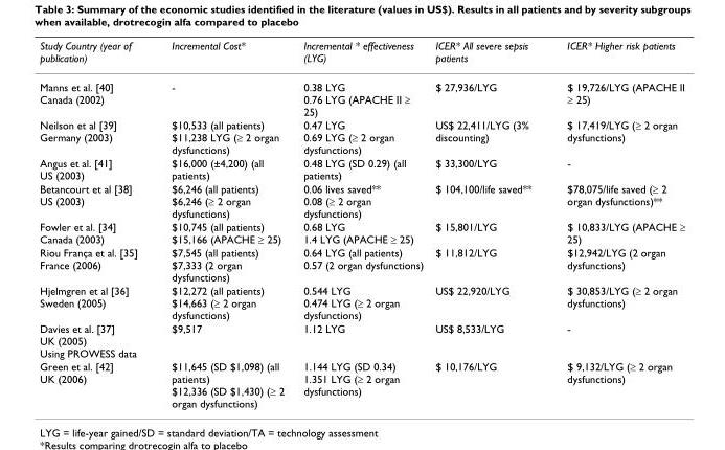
<table><thead><tr><td>Study Country (year of publication)</td><td>Incremental Cost*</td><td>Incremental * effectiveness (LYG)</td><td>ICER* All severe sepsis patients</td><td>ICER* Higher risk patients</td></tr></thead><tbody><tr><td>Manns et al. [40] Canada (2002)</td><td>-</td><td>0.38 LYG 0.76 LYG (APACHE II ≥ 25)</td><td>$ 27,936/LYG</td><td>$ 19,726/LYG (APACHE II ≥ 25)</td></tr><tr><td>Neilson et al [39] Germany (2003)</td><td>$10,533 (all patients) $11,238 LYG (≥ 2 organ dysfunctions)</td><td>0.47 LYG 0.69 LYG (≥ 2 organ dysfunctions)</td><td>US$ 22,411/LYG (3% discounting)</td><td>$ 17,419/LYG (≥ 2 organ dysfunctions)</td></tr><tr><td>Angus et al. [41] US (2003)</td><td>$16,000 (±4,200) (all patients)</td><td>0.48 LYG (SD 0.29) (all patients)</td><td>$ 33,300/LYG</td><td>-</td></tr><tr><td>Betancourt et al [38] US (2003)</td><td>$6,246 (all patients) $6,246 (≥ 2 organ dysfunctions)</td><td>0.06 lives saved** 0.08 (≥ 2 organ dysfunctions)</td><td>$ 104,100/life saved**</td><td>$78,075/life saved (≥ 2 organ dysfunctions)**</td></tr><tr><td>Fowler et al. [34] Canada (2003)</td><td>$10,745 (all patients) $15,166 (APACHE ≥ 25)</td><td>0.68 LYG 1.4 LYG (APACHE ≥ 25)</td><td>$ 15,801/LYG</td><td>$ 10,833/LYG (APACHE ≥ 25)</td></tr><tr><td>Riou França et al. [35] France (2006)</td><td>$7,545 (all patients) $7,333 (2 organ dysfunctions)</td><td>0.64 LYG (all patients) 0.57 (2 organ dysfunctions)</td><td>$ 11,812/LYG</td><td>$12,942/LYG (2 organ dysfunctions)</td></tr><tr><td>Hjelmgren et al [36] Sweden (2005)</td><td>$12,272 (all patients) $14,663 (≥ 2 organ dysfunctions)</td><td>0.544 LYG 0.474 LYG (≥ 2 organ dysfunctions)</td><td>US$ 22,920/LYG</td><td>$ 30,853/LYG (≥ 2 organ dysfunctions)</td></tr><tr><td>Davies et al. [37] UK (2005) Using PROWESS data</td><td>$9,517</td><td>1.12 LYG</td><td>US$ 8,533/LYG</td><td>-</td></tr><tr><td>Green et al. [42] UK (2006)</td><td>$11,645 (SD $1,098) (all patients) $12,336 (SD $1,430) (≥ 2 organ dysfunctions)</td><td>1.144 LYG (SD 0.34) 1.351 LYG (≥ 2 organ dysfunctions)</td><td>$ 10,176/LYG</td><td>$ 9,132/LYG (≥ 2 organ dysfunctions)</td></tr></tbody></table>